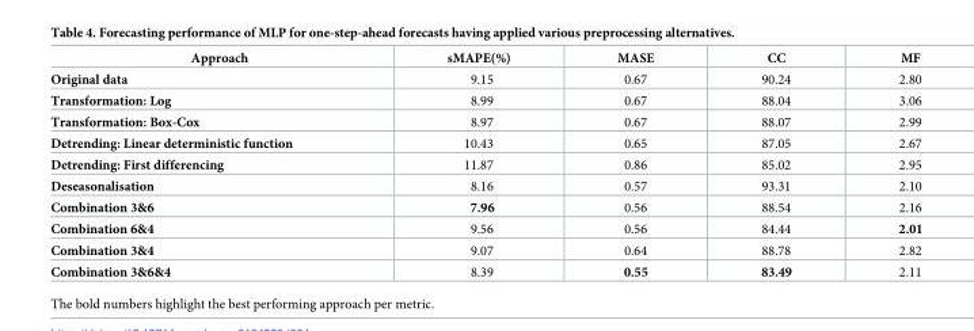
<table><thead><tr><td>Approach</td><td>sMAPE(%)</td><td>MASE</td><td>CC</td><td>MF</td></tr></thead><tbody><tr><td>Original data</td><td>9.15</td><td>0.67</td><td>90.24</td><td>2.80</td></tr><tr><td>Transformation: Log</td><td>8.99</td><td>0.67</td><td>88.04</td><td>3.06</td></tr><tr><td>Transformation: Box-Cox</td><td>8.97</td><td>0.67</td><td>88.07</td><td>2.99</td></tr><tr><td>Detrending: Linear deterministic function</td><td>10.43</td><td>0.65</td><td>87.05</td><td>2.67</td></tr><tr><td>Detrending: First differencing</td><td>11.87</td><td>0.86</td><td>85.02</td><td>2.95</td></tr><tr><td>Deseasonalisation</td><td>8.16</td><td>0.57</td><td>93.31</td><td>2.10</td></tr><tr><td>Combination 3&amp;6</td><td>7.96</td><td>0.56</td><td>88.54</td><td>2.16</td></tr><tr><td>Combination 6&amp;4</td><td>9.56</td><td>0.56</td><td>84.44</td><td>2.01</td></tr><tr><td>Combination 3&amp;4</td><td>9.07</td><td>0.64</td><td>88.78</td><td>2.82</td></tr><tr><td>Combination 3&amp;6&amp;4</td><td>8.39</td><td>0.55</td><td>83.49</td><td>2.11</td></tr></tbody></table>